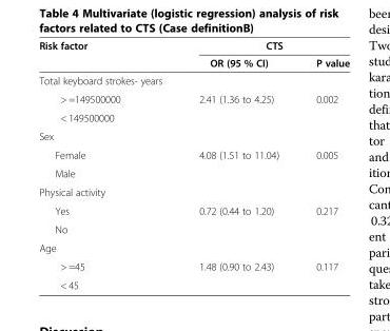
<table><thead><tr><td rowspan="2">Risk factor</td><td colspan="2">CTS</td></tr><tr><td>OR (95 % CI)</td><td>P value</td></tr></thead><tbody><tr><td colspan="3">Total keyboard strokes- years</td></tr><tr><td>&gt; =149500000</td><td>2.41 (1.36 to 4.25)</td><td>0.002</td></tr><tr><td colspan="3">&lt; 149500000</td></tr><tr><td colspan="3">Sex</td></tr><tr><td>Female</td><td>4.08 (1.51 to 11.04)</td><td>0.005</td></tr><tr><td colspan="3">Male</td></tr><tr><td colspan="3">Physical activity</td></tr><tr><td>Yes</td><td>0.72 (0.44 to 1.20)</td><td>0.217</td></tr><tr><td colspan="3">No</td></tr><tr><td colspan="3">Age</td></tr><tr><td>&gt; =45</td><td>1.48 (0.90 to 2.43)</td><td>0.117</td></tr><tr><td>&lt; 45</td><td></td><td></td></tr></tbody></table>